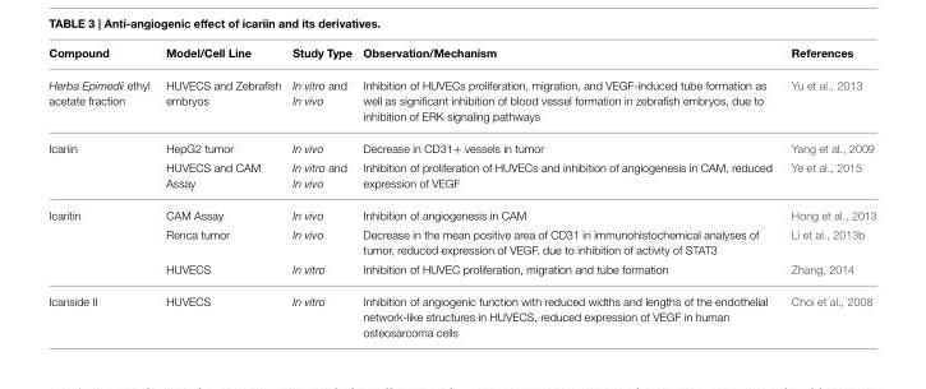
<table><thead><tr><td>Compound</td><td>Model/Cell Line</td><td>Study Type</td><td>Observation/Mechanism</td><td>References</td></tr></thead><tbody><tr><td>Herba Epimedii ethyl acetate fraction</td><td>HUVECS and Zebrafish embryos</td><td>In vitro and In vivo</td><td>Inhibition of HUVECs proliferation, migration, and VEGF-induced tube formation as well as significant inhibition of blood vessel formation in zebrafish embryos, due to inhibition of ERK signaling pathways</td><td>Yu et al., 2013</td></tr><tr><td rowspan="2">Icariin</td><td>HepG2 tumor</td><td>In vivo</td><td>Decrease in CD31+ vessels in tumor</td><td>Yang et al., 2009</td></tr><tr><td>HUVECS and CAM Assay</td><td>In vitro and In vivo</td><td>Inhibition of proliferation of HUVECs and inhibition of angiogenesis in CAM, reduced expression of VEGF</td><td>Ye et al., 2015</td></tr><tr><td rowspan="3">Icaritin</td><td>CAM Assay</td><td>In vivo</td><td>Inhibition of angiogenesis in CAM</td><td>Hong et al., 2013</td></tr><tr><td>Renca tumor</td><td>In vivo</td><td>Decrease in the mean positive area of CD31 in immunohistochemical analyses of tumor, reduced expression of VEGF, due to inhibition of activity of STAT3</td><td>Li et al., 2013b</td></tr><tr><td>HUVECS</td><td>In vitro</td><td>Inhibition of HUVEC proliferation, migration and tube formation</td><td>Zhang, 2014</td></tr><tr><td>Icariside II</td><td>HUVECS</td><td>In vitro</td><td>Inhibition of angiogenic function with reduced widths and lengths of the endothelial network-like structures in HUVECS, reduced expression of VEGF in human osteosarcoma cells</td><td>Choi et al., 2008</td></tr></tbody></table>